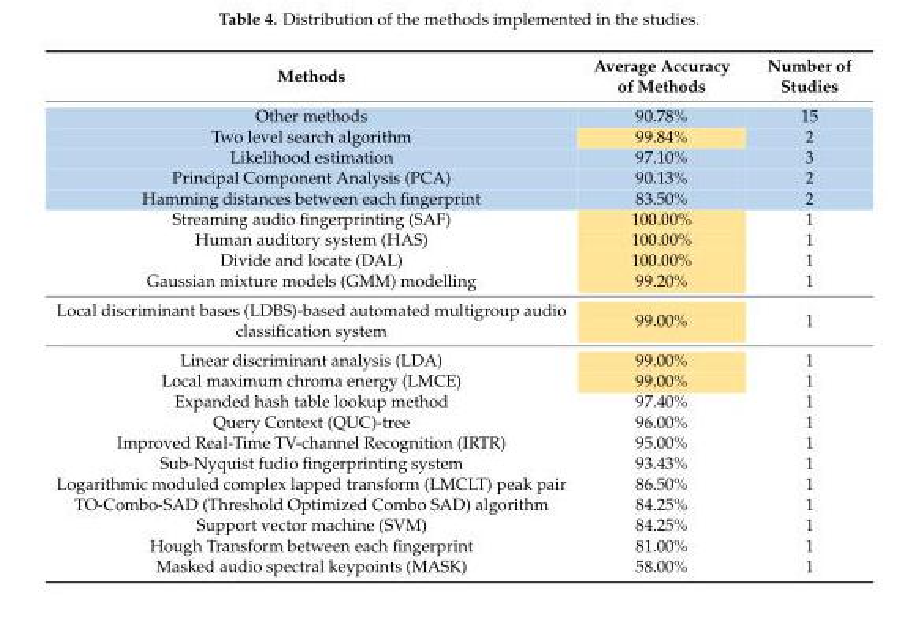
<table><thead><tr><td>Methods</td><td>Average Accuracy of Methods</td><td>Number of Studies</td></tr></thead><tbody><tr><td>Other methods</td><td>90.78%</td><td>15</td></tr><tr><td>Two level search algorithm</td><td>99.84%</td><td>2</td></tr><tr><td>Likelihood estimation</td><td>97.10%</td><td>3</td></tr><tr><td>Principal Component Analysis (PCA)</td><td>90.13%</td><td>2</td></tr><tr><td>Hamming distances between each fingerprint</td><td>83.50%</td><td>2</td></tr><tr><td>Streaming audio fingerprinting (SAF)</td><td>100.00%</td><td>1</td></tr><tr><td>Human auditory system (HAS)</td><td>100.00%</td><td>1</td></tr><tr><td>Divide and locate (DAL)</td><td>100.00%</td><td>1</td></tr><tr><td>Gaussian mixture models (GMM) modelling</td><td>99.20%</td><td>1</td></tr><tr><td>Local discriminant bases (LDBS)-based automated multigroup audio classification system</td><td>99.00%</td><td>1</td></tr><tr><td>Linear discriminant analysis (LDA)</td><td>99.00%</td><td>1</td></tr><tr><td>Local maximum chroma energy (LMCE)</td><td>99.00%</td><td>1</td></tr><tr><td>Expanded hash table lookup method</td><td>97.40%</td><td>1</td></tr><tr><td>Query Context (QUC)-tree</td><td>96.00%</td><td>1</td></tr><tr><td>Improved Real-Time TV-channel Recognition (IRTR)</td><td>95.00%</td><td>1</td></tr><tr><td>Sub-Nyquist fudio fingerprinting system</td><td>93.43%</td><td>1</td></tr><tr><td>Logarithmic moduled complex lapped transform (LMCLT) peak pair</td><td>86.50%</td><td>1</td></tr><tr><td>TO-Combo-SAD (Threshold Optimized Combo SAD) algorithm</td><td>84.25%</td><td>1</td></tr><tr><td>Support vector machine (SVM)</td><td>84.25%</td><td>1</td></tr><tr><td>Hough Transform between each fingerprint</td><td>81.00%</td><td>1</td></tr><tr><td>Masked audio spectral keypoints (MASK)</td><td>58.00%</td><td>1</td></tr></tbody></table>